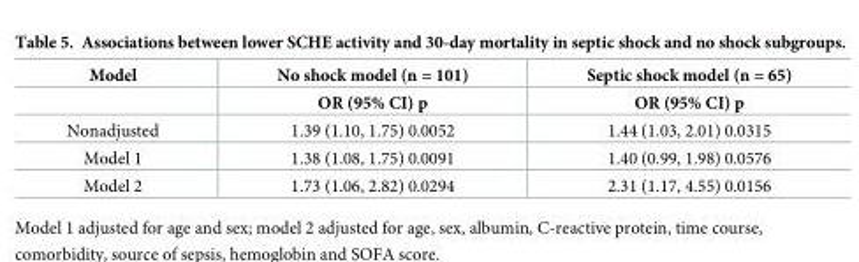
<table><thead><tr><td rowspan="2">Model</td><td rowspan="2">No shock model (n = 101) OR (95% CI) p</td><td rowspan="2">Septic shock model (n = 65) OR (95% CI) p</td></tr><tr></tr></thead><tbody><tr><td>Nonadjusted</td><td>1.39 (1.10, 1.75) 0.0052</td><td>1.44 (1.03, 2.01) 0.0315</td></tr><tr><td>Model 1</td><td>1.38 (1.08, 1.75) 0.0091</td><td>1.40 (0.99, 1.98) 0.0576</td></tr><tr><td>Model 2</td><td>1.73 (1.06, 2.82) 0.0294</td><td>2.31 (1.17, 4.55) 0.0156</td></tr></tbody></table>